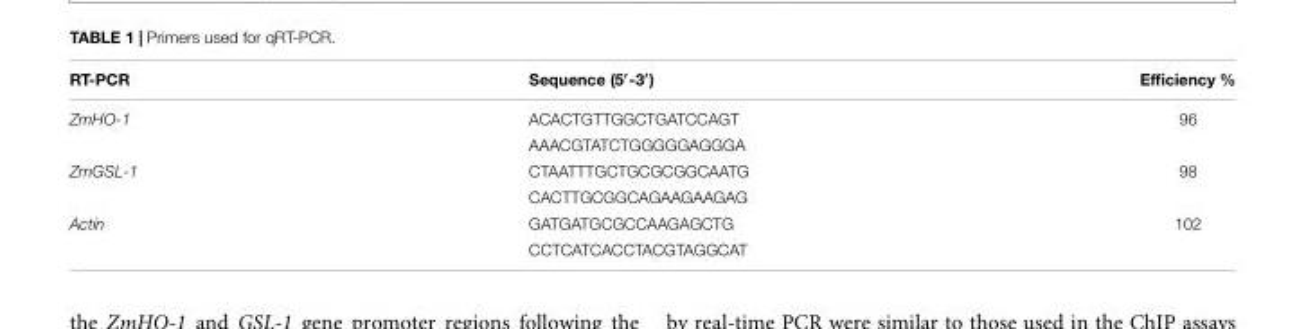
<table><thead><tr><td>RT-PCR</td><td>Sequence (5′-3′)</td><td>Efficiency %</td></tr></thead><tbody><tr><td rowspan="2">ZmHO-1</td><td>ACACTGTTGGCTGATCCAGT</td><td>96</td></tr><tr><td>AAACGTATCTGGGGGAGGGA</td><td></td></tr><tr><td rowspan="2">ZmGSL-1</td><td>CTAATTTGCTGCGCGGCAATG</td><td>98</td></tr><tr><td>CACTTGCGGCAGAAGAAGAG</td><td></td></tr><tr><td rowspan="2">Actin</td><td>GATGATGCGCCAAGAGCTG</td><td>102</td></tr><tr><td>CCTCATCACCTACGTAGGCAT</td><td></td></tr></tbody></table>